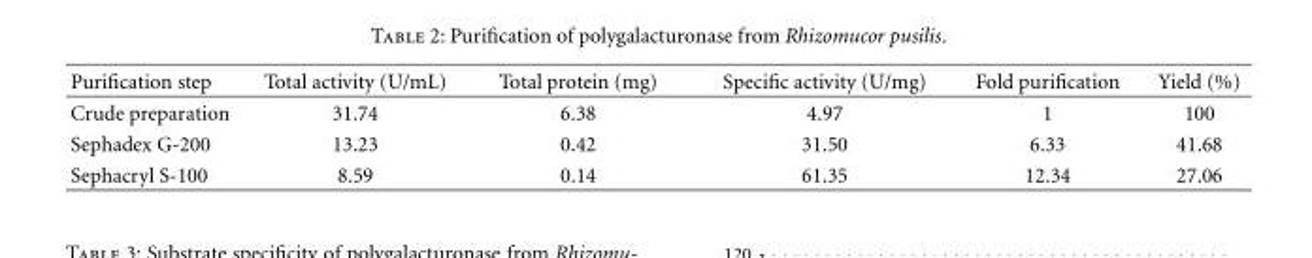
<table><thead><tr><td>Purification step</td><td>Total activity (U/mL)</td><td>Total protein (mg)</td><td>Specific activity (U/mg)</td><td>Fold purification</td><td>Yield (%)</td></tr></thead><tbody><tr><td>Crude preparation</td><td>31.74</td><td>6.38</td><td>4.97</td><td>1</td><td>100</td></tr><tr><td>Sephadex G-200</td><td>13.23</td><td>0.42</td><td>31.50</td><td>6.33</td><td>41.68</td></tr><tr><td>Sephacryl S-100</td><td>8.59</td><td>0.14</td><td>61.35</td><td>12.34</td><td>27.06</td></tr></tbody></table>